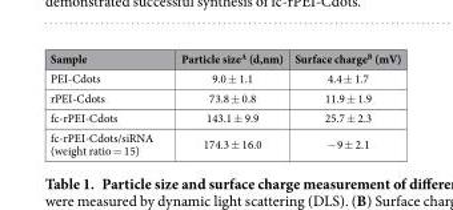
<table><thead><tr><td>Sample</td><td>Particle size<sup>A</sup> (d,nm)</td><td>Surface charge<sup>B</sup> (mV)</td></tr></thead><tbody><tr><td>PEI-Cdots</td><td>9.0 ± 1.1</td><td>4.4 ± 1.7</td></tr><tr><td>rPEI-Cdots</td><td>73.8 ± 0.8</td><td>11.9 ± 1.9</td></tr><tr><td>fc-rPEI-Cdots</td><td>143.1 ± 9.9</td><td>25.7 ± 2.3</td></tr><tr><td>fc-rPEI-Cdots/siRNA (weight ratio = 15)</td><td>174.3 ± 16.0</td><td>− 9 ± 2.1</td></tr></tbody></table>